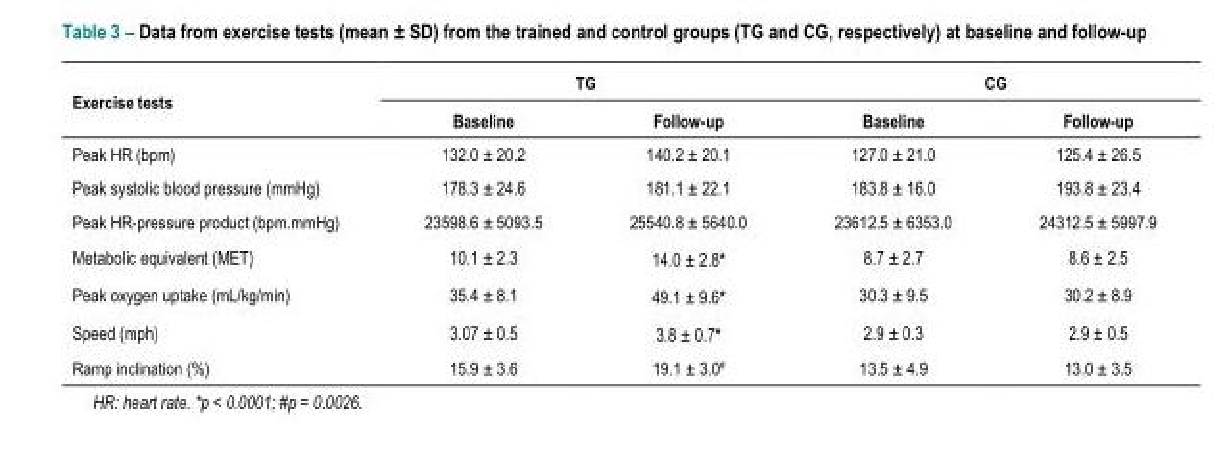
<table><thead><tr><td rowspan="2">Exercise tests</td><td colspan="2">TG</td><td colspan="2">CG</td></tr><tr><td>Baseline</td><td>Follow-up</td><td>Baseline</td><td>Follow-up</td></tr></thead><tbody><tr><td>Peak HR (bpm)</td><td>132.0 ± 20.2</td><td>140.2 ± 20.1</td><td>127.0 ± 21.0</td><td>125.4 ± 26.5</td></tr><tr><td>Peak systolic blood pressure (mmHg)</td><td>178.3 ± 24.6</td><td>181.1 ± 22.1</td><td>183.8 ± 16.0</td><td>193.8 ± 23.4</td></tr><tr><td>Peak HR-pressure product (bpm.mmHg)</td><td>23598.6 ± 5093.5</td><td>25540.8 ± 5640.0</td><td>23612.5 ± 6353.0</td><td>24312.5 ± 5997.9</td></tr><tr><td>Metabolic equivalent (MET)</td><td>10.1 ± 2.3</td><td>14.0 ± 2.8*</td><td>8.7 ± 2.7</td><td>8.6 ± 2.5</td></tr><tr><td>Peak oxygen uptake (mL/kg/min)</td><td>35.4 ± 8.1</td><td>49.1 ± 9.6*</td><td>30.3 ± 9.5</td><td>30.2 ± 8.9</td></tr><tr><td>Speed (mph)</td><td>3.07 ± 0.5</td><td>3.8 ± 0.7*</td><td>2.9 ± 0.3</td><td>2.9 ± 0.5</td></tr><tr><td>Ramp inclination (%)</td><td>15.9 ± 3.6</td><td>19.1 ± 3.0#</td><td>13.5 ± 4.9</td><td>13.0 ± 3.5</td></tr></tbody></table>